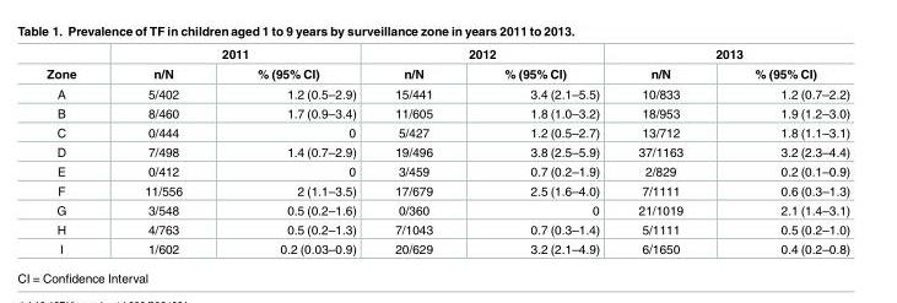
<table><thead><tr><td rowspan="2">Zone</td><td colspan="2">2011</td><td colspan="2">2012</td><td colspan="2">2013</td></tr><tr><td>n/N</td><td>% (95% CI)</td><td>n/N</td><td>% (95% CI)</td><td>n/N</td><td>% (95% CI)</td></tr></thead><tbody><tr><td>A</td><td>5/402</td><td>1.2 (0.5–2.9)</td><td>15/441</td><td>3.4 (2.1–5.5)</td><td>10/833</td><td>1.2 (0.7–2.2)</td></tr><tr><td>B</td><td>8/460</td><td>1.7 (0.9–3.4)</td><td>11/605</td><td>1.8 (1.0–3.2)</td><td>18/953</td><td>1.9 (1.2–3.0)</td></tr><tr><td>C</td><td>0/444</td><td>0</td><td>5/427</td><td>1.2 (0.5–2.7)</td><td>13/712</td><td>1.8 (1.1–3.1)</td></tr><tr><td>D</td><td>7/498</td><td>1.4 (0.7–2.9)</td><td>19/496</td><td>3.8 (2.5–5.9)</td><td>37/1163</td><td>3.2 (2.3–4.4)</td></tr><tr><td>E</td><td>0/412</td><td>0</td><td>3/459</td><td>0.7 (0.2–1.9)</td><td>2/829</td><td>0.2 (0.1–0.9)</td></tr><tr><td>F</td><td>11/556</td><td>2 (1.1–3.5)</td><td>17/679</td><td>2.5 (1.6–4.0)</td><td>7/1111</td><td>0.6 (0.3–1.3)</td></tr><tr><td>G</td><td>3/548</td><td>0.5 (0.2–1.6)</td><td>0/360</td><td>0</td><td>21/1019</td><td>2.1 (1.4–3.1)</td></tr><tr><td>H</td><td>4/763</td><td>0.5 (0.2–1.3)</td><td>7/1043</td><td>0.7 (0.3–1.4)</td><td>5/1111</td><td>0.5 (0.2–1.0)</td></tr><tr><td>I</td><td>1/602</td><td>0.2 (0.03–0.9)</td><td>20/629</td><td>3.2 (2.1–4.9)</td><td>6/1650</td><td>0.4 (0.2–0.8)</td></tr></tbody></table>